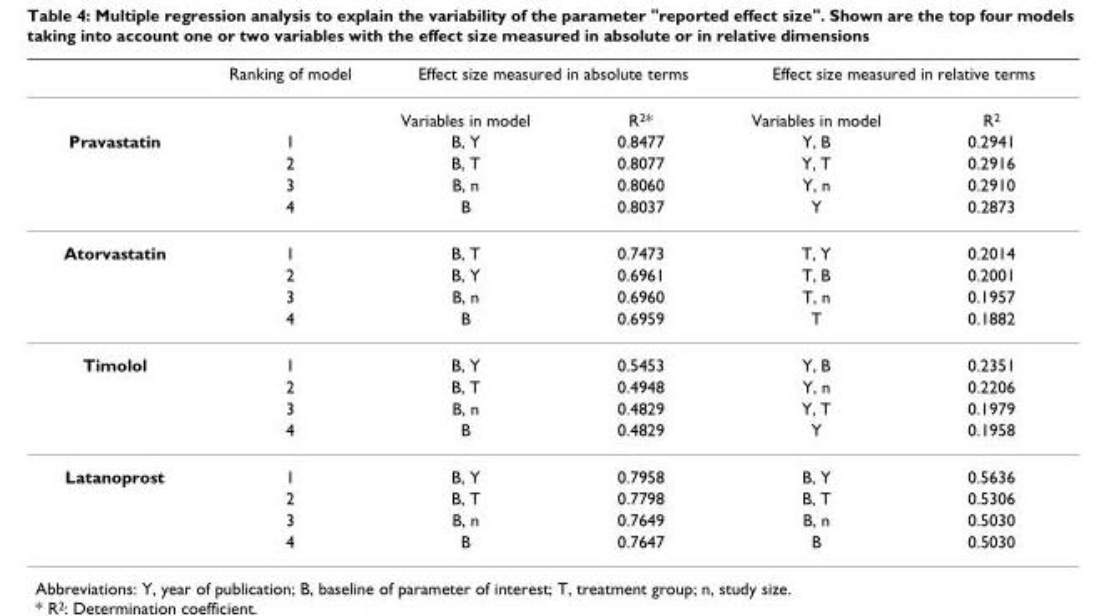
<table><thead><tr><td rowspan="2"></td><td rowspan="2">Ranking of model</td><td colspan="2">Effect size measured in absolute terms</td><td colspan="2">Effect size measured in relative terms</td></tr><tr><td>Variables in model</td><td>R<sup>2</sup>*</td><td>Variables in model</td><td>R<sup>2</sup></td></tr></thead><tbody><tr><td rowspan="4">Pravastatin</td><td>1</td><td>B, Y</td><td>0.8477</td><td>Y, B</td><td>0.2941</td></tr><tr><td>2</td><td>B, T</td><td>0.8077</td><td>Y, T</td><td>0.2916</td></tr><tr><td>3</td><td>B, n</td><td>0.8060</td><td>Y, n</td><td>0.2910</td></tr><tr><td>4</td><td>B</td><td>0.8037</td><td>Y</td><td>0.2873</td></tr><tr><td rowspan="4">Atorvastatin</td><td>1</td><td>B, T</td><td>0.7473</td><td>T, Y</td><td>0.2014</td></tr><tr><td>2</td><td>B, Y</td><td>0.6961</td><td>T, B</td><td>0.2001</td></tr><tr><td>3</td><td>B, n</td><td>0.6960</td><td>T, n</td><td>0.1957</td></tr><tr><td>4</td><td>B</td><td>0.6959</td><td>T</td><td>0.1882</td></tr><tr><td rowspan="4">Timolol</td><td>1</td><td>B, Y</td><td>0.5453</td><td>Y, B</td><td>0.2351</td></tr><tr><td>2</td><td>B, T</td><td>0.4948</td><td>Y, n</td><td>0.2206</td></tr><tr><td>3</td><td>B, n</td><td>0.4829</td><td>Y, T</td><td>0.1979</td></tr><tr><td>4</td><td>B</td><td>0.4829</td><td>Y</td><td>0.1958</td></tr><tr><td rowspan="4">Latanoprost</td><td>1</td><td>B, Y</td><td>0.7958</td><td>B, Y</td><td>0.5636</td></tr><tr><td>2</td><td>B, T</td><td>0.7798</td><td>B, T</td><td>0.5306</td></tr><tr><td>3</td><td>B, n</td><td>0.7649</td><td>B, n</td><td>0.5030</td></tr><tr><td>4</td><td>B</td><td>0.7647</td><td>B</td><td>0.5030</td></tr></tbody></table>